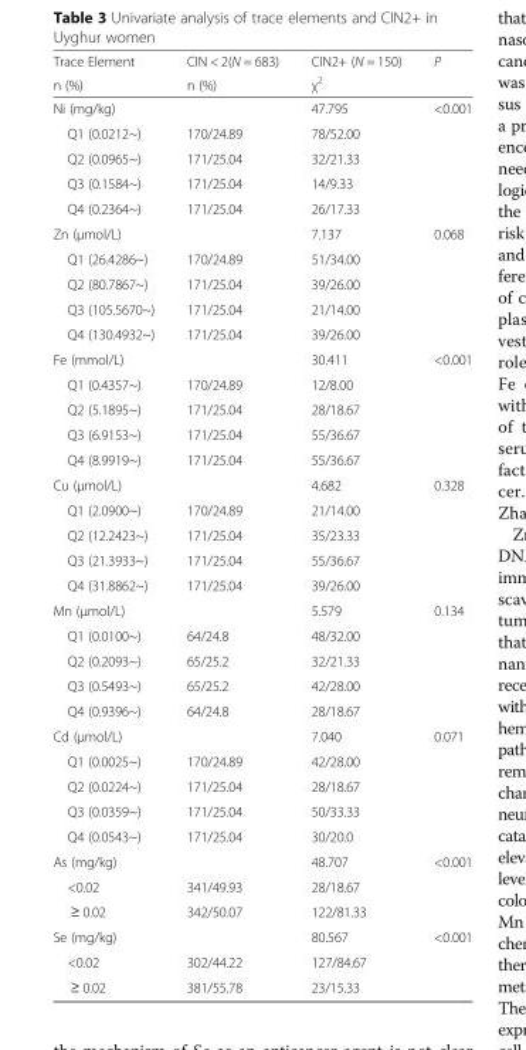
<table><thead><tr><td rowspan="2">Trace Element n (%)</td><td rowspan="2">CIN &lt; 2(N = 683) n (%)</td><td rowspan="2">CIN2+ (N = 150) χ<sup>2</sup></td><td rowspan="2">P</td></tr><tr></tr></thead><tbody><tr><td>Ni (mg/kg)</td><td></td><td>47.795</td><td>&lt;0.001</td></tr><tr><td>Q1 (0.0212~)</td><td>170/24.89</td><td>78/52.00</td><td></td></tr><tr><td>Q2 (0.0965~)</td><td>171/25.04</td><td>32/21.33</td><td></td></tr><tr><td>Q3 (0.1584~)</td><td>171/25.04</td><td>14/9.33</td><td></td></tr><tr><td>Q4 (0.2364~)</td><td>171/25.04</td><td>26/17.33</td><td></td></tr><tr><td>Zn (μmol/L)</td><td></td><td>7.137</td><td>0.068</td></tr><tr><td>Q1 (26.4286~)</td><td>170/24.89</td><td>51/34.00</td><td></td></tr><tr><td>Q2 (80.7867~)</td><td>171/25.04</td><td>39/26.00</td><td></td></tr><tr><td>Q3 (105.5670~)</td><td>171/25.04</td><td>21/14.00</td><td></td></tr><tr><td>Q4 (130.4932~)</td><td>171/25.04</td><td>39/26.00</td><td></td></tr><tr><td>Fe (mmol/L)</td><td></td><td>30.411</td><td>&lt;0.001</td></tr><tr><td>Q1 (0.4357~)</td><td>170/24.89</td><td>12/8.00</td><td></td></tr><tr><td>Q2 (5.1895~)</td><td>171/25.04</td><td>28/18.67</td><td></td></tr><tr><td>Q3 (6.9153~)</td><td>171/25.04</td><td>55/36.67</td><td></td></tr><tr><td>Q4 (8.9919~)</td><td>171/25.04</td><td>55/36.67</td><td></td></tr><tr><td>Cu (μmol/L)</td><td></td><td>4.682</td><td>0.328</td></tr><tr><td>Q1 (2.0900~)</td><td>170/24.89</td><td>21/14.00</td><td></td></tr><tr><td>Q2 (12.2423~)</td><td>171/25.04</td><td>35/23.33</td><td></td></tr><tr><td>Q3 (21.3933~)</td><td>171/25.04</td><td>55/36.67</td><td></td></tr><tr><td>Q4 (31.8862~)</td><td>171/25.04</td><td>39/26.00</td><td></td></tr><tr><td>Mn (μmol/L)</td><td></td><td>5.579</td><td>0.134</td></tr><tr><td>Q1 (0.0100~)</td><td>64/24.8</td><td>48/32.00</td><td></td></tr><tr><td>Q2 (0.2093~)</td><td>65/25.2</td><td>32/21.33</td><td></td></tr><tr><td>Q3 (0.5493~)</td><td>65/25.2</td><td>42/28.00</td><td></td></tr><tr><td>Q4 (0.9396~)</td><td>64/24.8</td><td>28/18.67</td><td></td></tr><tr><td>Cd (μmol/L)</td><td></td><td>7.040</td><td>0.071</td></tr><tr><td>Q1 (0.0025~)</td><td>170/24.89</td><td>42/28.00</td><td></td></tr><tr><td>Q2 (0.0224~)</td><td>171/25.04</td><td>28/18.67</td><td></td></tr><tr><td>Q3 (0.0359~)</td><td>171/25.04</td><td>50/33.33</td><td></td></tr><tr><td>Q4 (0.0543~)</td><td>171/25.04</td><td>30/20.0</td><td></td></tr><tr><td>As (mg/kg)</td><td></td><td>48.707</td><td>&lt;0.001</td></tr><tr><td>&lt;0.02</td><td>341/49.93</td><td>28/18.67</td><td></td></tr><tr><td>≥ 0.02</td><td>342/50.07</td><td>122/81.33</td><td></td></tr><tr><td>Se (mg/kg)</td><td></td><td>80.567</td><td>&lt;0.001</td></tr><tr><td>&lt;0.02</td><td>302/44.22</td><td>127/84.67</td><td></td></tr><tr><td>≥ 0.02</td><td>381/55.78</td><td>23/15.33</td><td></td></tr></tbody></table>